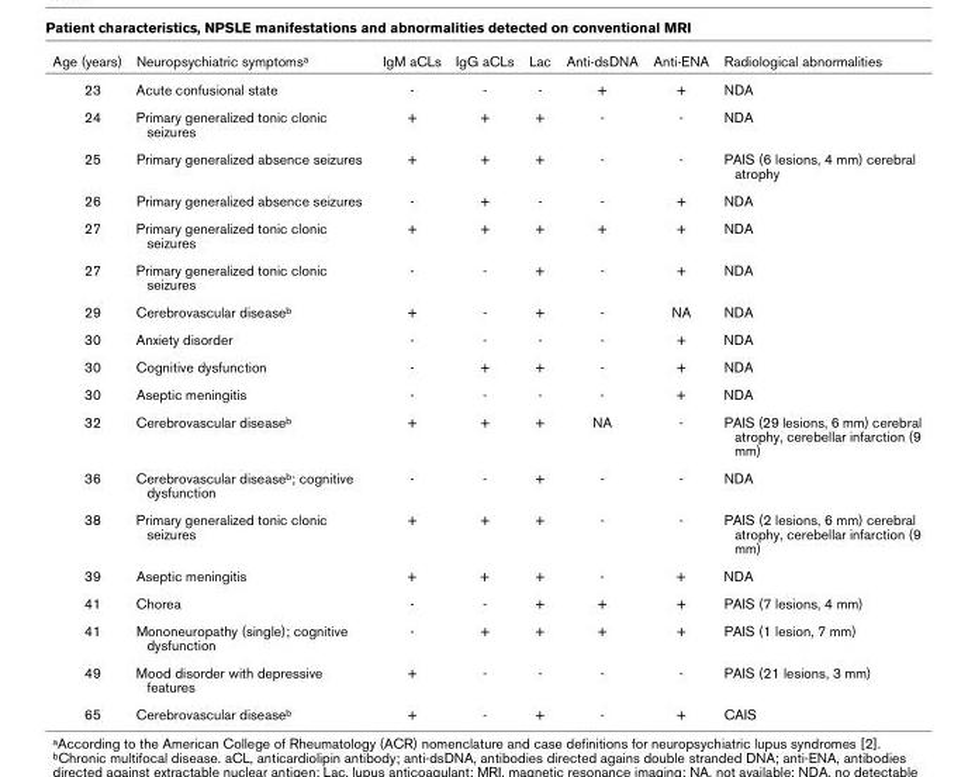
<table><thead><tr><td>Age (years)</td><td>Neuropsychiatric symptomsa</td><td>IgM aCLs</td><td>IgG aCLs</td><td>Lac</td><td>Anti-dsDNA</td><td>Anti-ENA</td><td>Radiological abnormalities</td></tr></thead><tbody><tr><td>23</td><td>Acute confusional state</td><td>-</td><td>-</td><td>-</td><td>+</td><td>+</td><td>NDA</td></tr><tr><td>24</td><td>Primary generalized tonic clonic seizures</td><td>+</td><td>+</td><td>+</td><td>-</td><td>-</td><td>NDA</td></tr><tr><td>25</td><td>Primary generalized absence seizures</td><td>+</td><td>+</td><td>+</td><td>-</td><td>-</td><td>PAIS (6 lesions, 4 mm) cerebral atrophy</td></tr><tr><td>26</td><td>Primary generalized absence seizures</td><td>-</td><td>+</td><td>-</td><td>-</td><td>+</td><td>NDA</td></tr><tr><td>27</td><td>Primary generalized tonic clonic seizures</td><td>+</td><td>+</td><td>+</td><td>+</td><td>+</td><td>NDA</td></tr><tr><td>27</td><td>Primary generalized tonic clonic seizures</td><td>-</td><td>-</td><td>+</td><td>-</td><td>+</td><td>NDA</td></tr><tr><td>29</td><td>Cerebrovascular diseaseb</td><td>+</td><td>-</td><td>+</td><td>-</td><td>NA</td><td>NDA</td></tr><tr><td>30</td><td>Anxiety disorder</td><td>-</td><td>-</td><td>-</td><td>-</td><td>+</td><td>NDA</td></tr><tr><td>30</td><td>Cognitive dysfunction</td><td>-</td><td>+</td><td>+</td><td>-</td><td>+</td><td>NDA</td></tr><tr><td>30</td><td>Aseptic meningitis</td><td>-</td><td>-</td><td>-</td><td>-</td><td>+</td><td>NDA</td></tr><tr><td>32</td><td>Cerebrovascular diseaseb</td><td>+</td><td>+</td><td>+</td><td>NA</td><td>-</td><td>PAIS (29 lesions, 6 mm) cerebral atrophy, cerebellar infarction (9 mm)</td></tr><tr><td>36</td><td>Cerebrovascular diseaseb; cognitive dysfunction</td><td>-</td><td>-</td><td>+</td><td>-</td><td>-</td><td>NDA</td></tr><tr><td>38</td><td>Primary generalized tonic clonic seizures</td><td>+</td><td>+</td><td>+</td><td>-</td><td>-</td><td>PAIS (2 lesions, 6 mm) cerebral atrophy, cerebellar infarction (9 mm)</td></tr><tr><td>39</td><td>Aseptic meningitis</td><td>+</td><td>+</td><td>+</td><td>-</td><td>+</td><td>NDA</td></tr><tr><td>41</td><td>Chorea</td><td>-</td><td>-</td><td>+</td><td>+</td><td>+</td><td>PAIS (7 lesions, 4 mm)</td></tr><tr><td>41</td><td>Mononeuropathy (single); cognitive dysfunction</td><td>-</td><td>+</td><td>+</td><td>+</td><td>+</td><td>PAIS (1 lesion, 7 mm)</td></tr><tr><td>49</td><td>Mood disorder with depressive features</td><td>+</td><td>-</td><td>-</td><td>-</td><td>-</td><td>PAIS (21 lesions, 3 mm)</td></tr><tr><td>65</td><td>Cerebrovascular diseaseb</td><td>+</td><td>-</td><td>+</td><td>-</td><td>+</td><td>CAIS</td></tr></tbody></table>